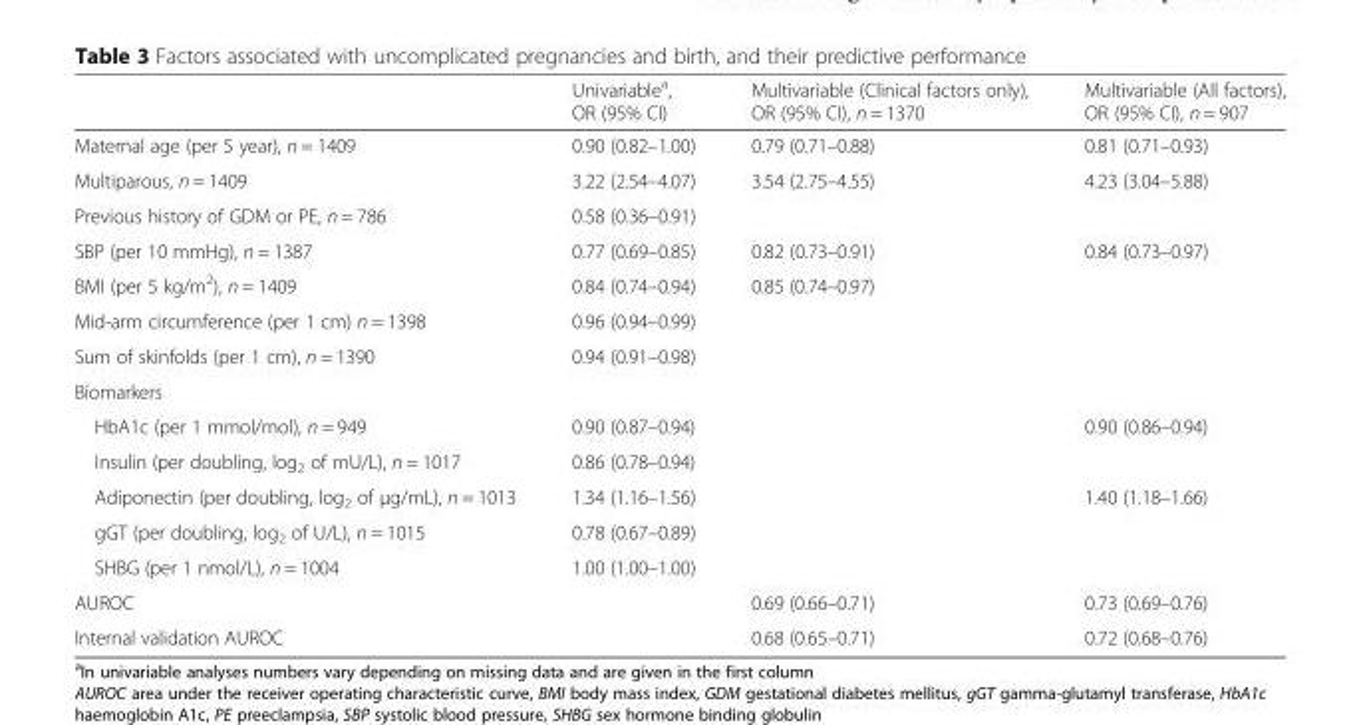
<table><thead><tr><td></td><td>Univariable<sup>a</sup>, OR (95% CI)</td><td>Multivariable (Clinical factors only), OR (95% CI), n = 1370</td><td>Multivariable (All factors), OR (95% CI), n = 907</td></tr></thead><tbody><tr><td>Maternal age (per 5 year), n = 1409</td><td>0.90 (0.82–1.00)</td><td>0.79 (0.71–0.88)</td><td>0.81 (0.71–0.93)</td></tr><tr><td>Multiparous, n = 1409</td><td>3.22 (2.54–4.07)</td><td>3.54 (2.75–4.55)</td><td>4.23 (3.04–5.88)</td></tr><tr><td>Previous history of GDM or PE, n = 786</td><td>0.58 (0.36–0.91)</td><td></td><td></td></tr><tr><td>SBP (per 10 mmHg), n = 1387</td><td>0.77 (0.69–0.85)</td><td>0.82 (0.73–0.91)</td><td>0.84 (0.73–0.97)</td></tr><tr><td>BMI (per 5 kg/m<sup>2</sup>), n = 1409</td><td>0.84 (0.74–0.94)</td><td>0.85 (0.74–0.97)</td><td></td></tr><tr><td>Mid-arm circumference (per 1 cm) n = 1398</td><td>0.96 (0.94–0.99)</td><td></td><td></td></tr><tr><td>Sum of skinfolds (per 1 cm), n = 1390</td><td>0.94 (0.91–0.98)</td><td></td><td></td></tr><tr><td colspan="4">Biomarkers</td></tr><tr><td>HbA1c (per 1 mmol/mol), n = 949</td><td>0.90 (0.87–0.94)</td><td></td><td>0.90 (0.86–0.94)</td></tr><tr><td>Insulin (per doubling, log<sub>2</sub> of mU/L), n = 1017</td><td>0.86 (0.78–0.94)</td><td></td><td></td></tr><tr><td>Adiponectin (per doubling, log<sub>2</sub> of μg/mL), n = 1013</td><td>1.34 (1.16–1.56)</td><td></td><td>1.40 (1.18–1.66)</td></tr><tr><td>gGT (per doubling, log<sub>2</sub> of U/L), n = 1015</td><td>0.78 (0.67–0.89)</td><td></td><td></td></tr><tr><td>SHBG (per 1 nmol/L), n = 1004</td><td>1.00 (1.00–1.00)</td><td></td><td></td></tr><tr><td>AUROC</td><td></td><td>0.69 (0.66–0.71)</td><td>0.73 (0.69–0.76)</td></tr><tr><td>Internal validation AUROC</td><td></td><td>0.68 (0.65–0.71)</td><td>0.72 (0.68–0.76)</td></tr></tbody></table>